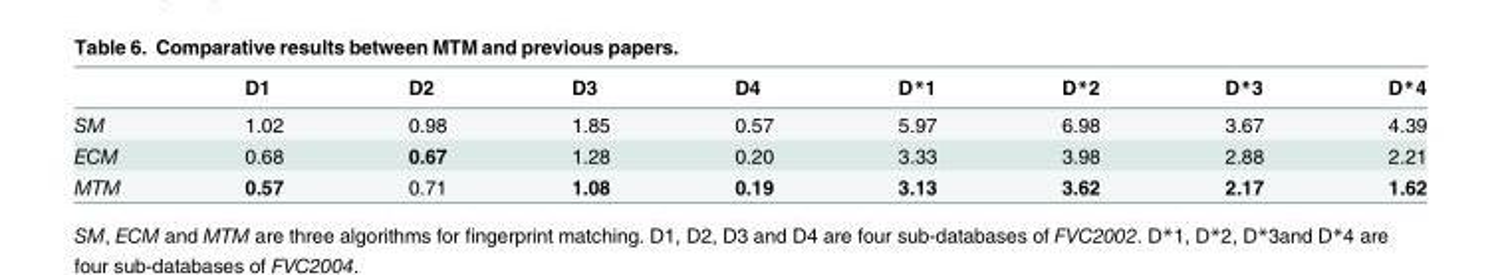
<table><thead><tr><td></td><td>D1</td><td>D2</td><td>D3</td><td>D4</td><td>D*1</td><td>D*2</td><td>D*3</td><td>D*4</td></tr></thead><tbody><tr><td>SM</td><td>1.02</td><td>0.98</td><td>1.85</td><td>0.57</td><td>5.97</td><td>6.98</td><td>3.67</td><td>4.39</td></tr><tr><td>ECM</td><td>0.68</td><td>0.67</td><td>1.28</td><td>0.20</td><td>3.33</td><td>3.98</td><td>2.88</td><td>2.21</td></tr><tr><td>MTM</td><td>0.57</td><td>0.71</td><td>1.08</td><td>0.19</td><td>3.13</td><td>3.62</td><td>2.17</td><td>1.62</td></tr></tbody></table>